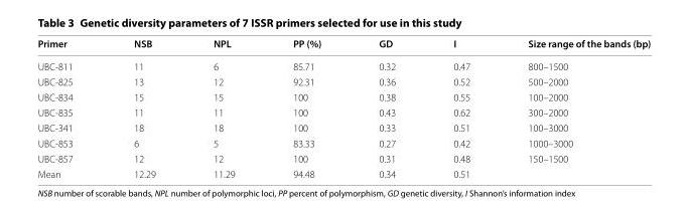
<table><thead><tr><td>Primer</td><td>NSB</td><td>NPL</td><td>PP (%)</td><td>GD</td><td>I</td><td>Size range of the bands (bp)</td></tr></thead><tbody><tr><td>UBC-811</td><td>11</td><td>6</td><td>85.71</td><td>0.32</td><td>0.47</td><td>800–1500</td></tr><tr><td>UBC-825</td><td>13</td><td>12</td><td>92.31</td><td>0.36</td><td>0.52</td><td>500–2000</td></tr><tr><td>UBC-834</td><td>15</td><td>15</td><td>100</td><td>0.38</td><td>0.55</td><td>100–2000</td></tr><tr><td>UBC-835</td><td>11</td><td>11</td><td>100</td><td>0.43</td><td>0.62</td><td>300–2000</td></tr><tr><td>UBC-341</td><td>18</td><td>18</td><td>100</td><td>0.33</td><td>0.51</td><td>100–3000</td></tr><tr><td>UBC-853</td><td>6</td><td>5</td><td>83.33</td><td>0.27</td><td>0.42</td><td>1000–3000</td></tr><tr><td>UBC-857</td><td>12</td><td>12</td><td>100</td><td>0.31</td><td>0.48</td><td>150–1500</td></tr><tr><td>Mean</td><td>12.29</td><td>11.29</td><td>94.48</td><td>0.34</td><td>0.51</td><td></td></tr></tbody></table>